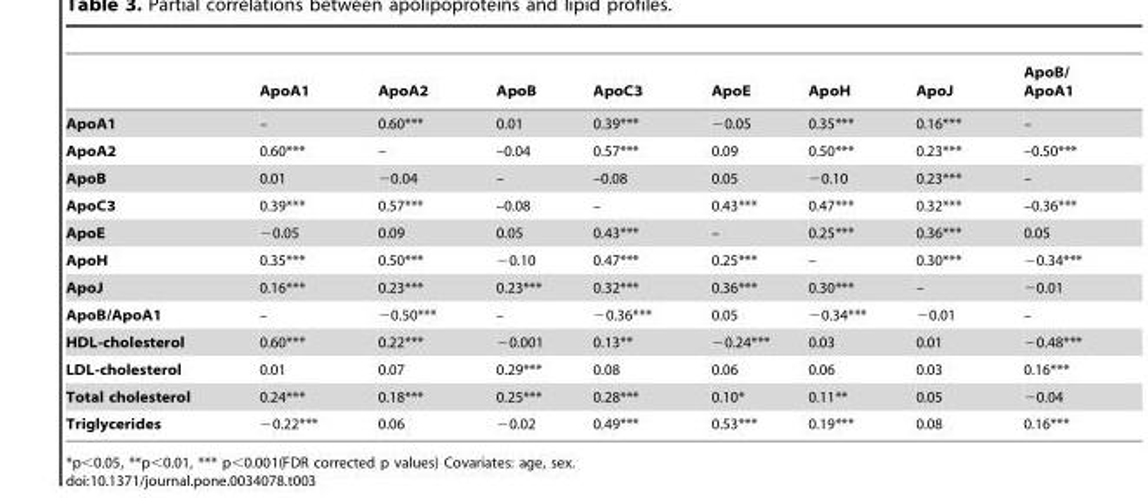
<table><thead><tr><td></td><td>ApoA1</td><td>ApoA2</td><td>ApoB</td><td>ApoC3</td><td>ApoE</td><td>ApoH</td><td>ApoJ</td><td>ApoB/ ApoA1</td></tr></thead><tbody><tr><td>ApoA1</td><td>–</td><td>0.60***</td><td>0.01</td><td>0.39***</td><td>−0.05</td><td>0.35***</td><td>0.16***</td><td>–</td></tr><tr><td>ApoA2</td><td>0.60***</td><td>–</td><td>–0.04</td><td>0.57***</td><td>0.09</td><td>0.50***</td><td>0.23***</td><td>–0.50***</td></tr><tr><td>ApoB</td><td>0.01</td><td>−0.04</td><td>–</td><td>–0.08</td><td>0.05</td><td>−0.10</td><td>0.23***</td><td>–</td></tr><tr><td>ApoC3</td><td>0.39***</td><td>0.57***</td><td>–0.08</td><td>–</td><td>0.43***</td><td>0.47***</td><td>0.32***</td><td>–0.36***</td></tr><tr><td>ApoE</td><td>−0.05</td><td>0.09</td><td>0.05</td><td>0.43***</td><td>–</td><td>0.25***</td><td>0.36***</td><td>0.05</td></tr><tr><td>ApoH</td><td>0.35***</td><td>0.50***</td><td>−0.10</td><td>0.47***</td><td>0.25***</td><td>–</td><td>0.30***</td><td>−0.34***</td></tr><tr><td>ApoJ</td><td>0.16***</td><td>0.23***</td><td>0.23***</td><td>0.32***</td><td>0.36***</td><td>0.30***</td><td>–</td><td>−0.01</td></tr><tr><td>ApoB/ApoA1</td><td>–</td><td>−0.50***</td><td>–</td><td>−0.36***</td><td>0.05</td><td>−0.34***</td><td>−0.01</td><td>–</td></tr><tr><td>HDL-cholesterol</td><td>0.60***</td><td>0.22***</td><td>−0.001</td><td>0.13**</td><td>−0.24***</td><td>0.03</td><td>0.01</td><td>−0.48***</td></tr><tr><td>LDL-cholesterol</td><td>0.01</td><td>0.07</td><td>0.29***</td><td>0.08</td><td>0.06</td><td>0.06</td><td>0.03</td><td>0.16***</td></tr><tr><td>Total cholesterol</td><td>0.24***</td><td>0.18***</td><td>0.25***</td><td>0.28***</td><td>0.10*</td><td>0.11**</td><td>0.05</td><td>−0.04</td></tr><tr><td>Triglycerides</td><td>−0.22***</td><td>0.06</td><td>−0.02</td><td>0.49***</td><td>0.53***</td><td>0.19***</td><td>0.08</td><td>0.16***</td></tr></tbody></table>